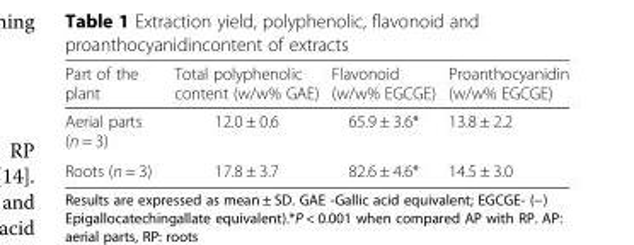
<table><thead><tr><td>Part of the plant</td><td>Total polyphenolic content (w/w% GAE)</td><td>Flavonoid (w/w% EGCGE)</td><td>Proanthocyanidin (w/w% EGCGE)</td></tr></thead><tbody><tr><td>Aerial parts (n = 3)</td><td>12.0 ± 0.6</td><td>65.9 ± 3.6*</td><td>13.8 ± 2.2</td></tr><tr><td>Roots (n = 3)</td><td>17.8 ± 3.7</td><td>82.6 ± 4.6*</td><td>14.5 ± 3.0</td></tr></tbody></table>